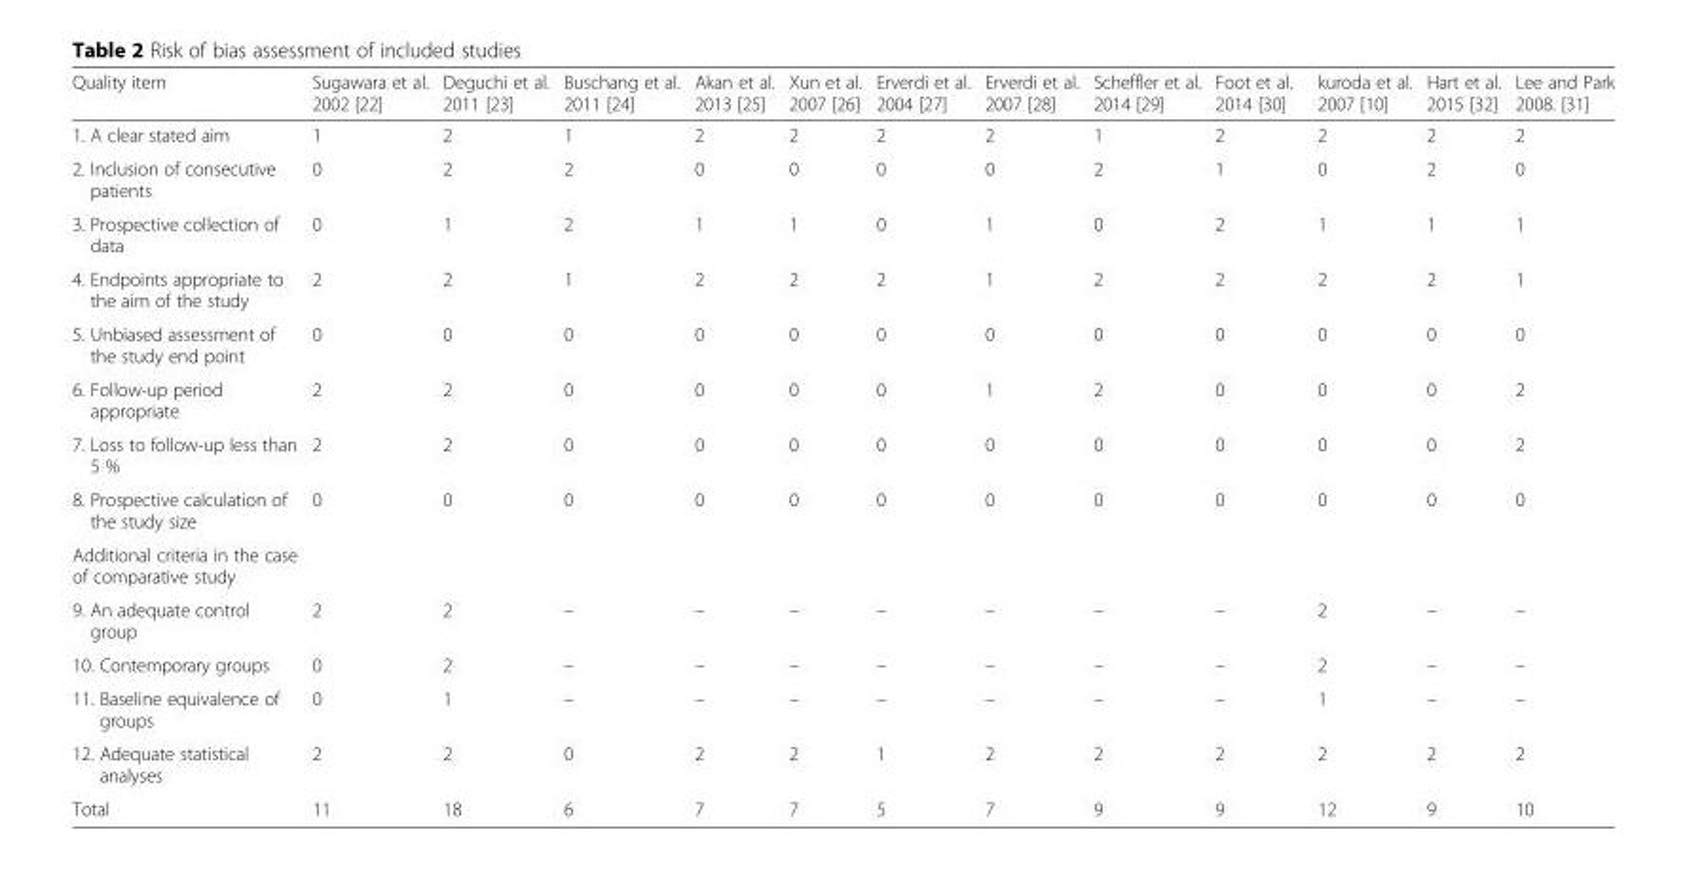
<table><thead><tr><td>Quality item</td><td>Sugawara et al. 2002 [22]</td><td>Deguchi et al. 2011 [23]</td><td>Buschang et al. 2011 [24]</td><td>Akan et al. 2013 [25]</td><td>Xun et al. 2007 [26]</td><td>Erverdi et al. 2004 [27]</td><td>Erverdi et al. 2007 [28]</td><td>Scheffler et al. 2014 [29]</td><td>Foot et al. 2014 [30]</td><td>kuroda et al. 2007 [10]</td><td>Hart et al. 2015 [32]</td><td>Lee and Park 2008. [31]</td></tr></thead><tbody><tr><td>1. A clear stated aim</td><td>1</td><td>2</td><td>1</td><td>2</td><td>2</td><td>2</td><td>2</td><td>1</td><td>2</td><td>2</td><td>2</td><td>2</td></tr><tr><td>2. Inclusion of consecutive patients</td><td>0</td><td>2</td><td>2</td><td>0</td><td>0</td><td>0</td><td>0</td><td>2</td><td>1</td><td>0</td><td>2</td><td>0</td></tr><tr><td>3. Prospective collection of data</td><td>0</td><td>1</td><td>2</td><td>1</td><td>1</td><td>0</td><td>1</td><td>0</td><td>2</td><td>1</td><td>1</td><td>1</td></tr><tr><td>4. Endpoints appropriate to the aim of the study</td><td>2</td><td>2</td><td>1</td><td>2</td><td>2</td><td>2</td><td>1</td><td>2</td><td>2</td><td>2</td><td>2</td><td>1</td></tr><tr><td>5. Unbiased assessment of the study end point</td><td>0</td><td>0</td><td>0</td><td>0</td><td>0</td><td>0</td><td>0</td><td>0</td><td>0</td><td>0</td><td>0</td><td>0</td></tr><tr><td>6. Follow-up period appropriate</td><td>2</td><td>2</td><td>0</td><td>0</td><td>0</td><td>0</td><td>1</td><td>2</td><td>0</td><td>0</td><td>0</td><td>2</td></tr><tr><td>7. Loss to follow-up less than 5 %</td><td>2</td><td>2</td><td>0</td><td>0</td><td>0</td><td>0</td><td>0</td><td>0</td><td>0</td><td>0</td><td>0</td><td>2</td></tr><tr><td>8. Prospective calculation of the study size</td><td>0</td><td>0</td><td>0</td><td>0</td><td>0</td><td>0</td><td>0</td><td>0</td><td>0</td><td>0</td><td>0</td><td>0</td></tr><tr><td colspan="13">Additional criteria in the case of comparative study</td></tr><tr><td>9. An adequate control group</td><td>2</td><td>2</td><td>–</td><td>–</td><td>–</td><td>–</td><td>–</td><td>–</td><td>–</td><td>2</td><td>–</td><td>–</td></tr><tr><td>10. Contemporary groups</td><td>0</td><td>2</td><td>–</td><td>–</td><td>–</td><td>–</td><td>–</td><td>–</td><td>–</td><td>2</td><td>–</td><td>–</td></tr><tr><td>11. Baseline equivalence of groups</td><td>0</td><td>1</td><td>–</td><td>–</td><td>–</td><td>–</td><td>–</td><td>–</td><td>–</td><td>1</td><td>–</td><td>–</td></tr><tr><td>12. Adequate statistical analyses</td><td>2</td><td>2</td><td>0</td><td>2</td><td>2</td><td>1</td><td>2</td><td>2</td><td>2</td><td>2</td><td>2</td><td>2</td></tr><tr><td>Total</td><td>11</td><td>18</td><td>6</td><td>7</td><td>7</td><td>5</td><td>7</td><td>9</td><td>9</td><td>12</td><td>9</td><td>10</td></tr></tbody></table>